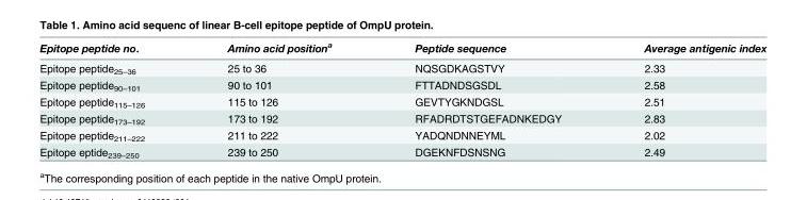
<table><thead><tr><td>Epitope peptide no.</td><td>Amino acid position<sup>a</sup></td><td>Peptide sequence</td><td>Average antigenic index</td></tr></thead><tbody><tr><td>Epitope peptide<sub>25–36</sub></td><td>25 to 36</td><td>NQSGDKAGSTVY</td><td>2.33</td></tr><tr><td>Epitope peptide<sub>90–101</sub></td><td>90 to 101</td><td>FTTADNDSGSDL</td><td>2.58</td></tr><tr><td>Epitope peptide<sub>115–126</sub></td><td>115 to 126</td><td>GEVTYGKNDGSL</td><td>2.51</td></tr><tr><td>Epitope peptide<sub>173–192</sub></td><td>173 to 192</td><td>RFADRDTSTGEFADNKEDGY</td><td>2.83</td></tr><tr><td>Epitope peptide<sub>211–222</sub></td><td>211 to 222</td><td>YADQNDNNEYML</td><td>2.02</td></tr><tr><td>Epitope eptide<sub>239–250</sub></td><td>239 to 250</td><td>DGEKNFDSNSNG</td><td>2.49</td></tr></tbody></table>